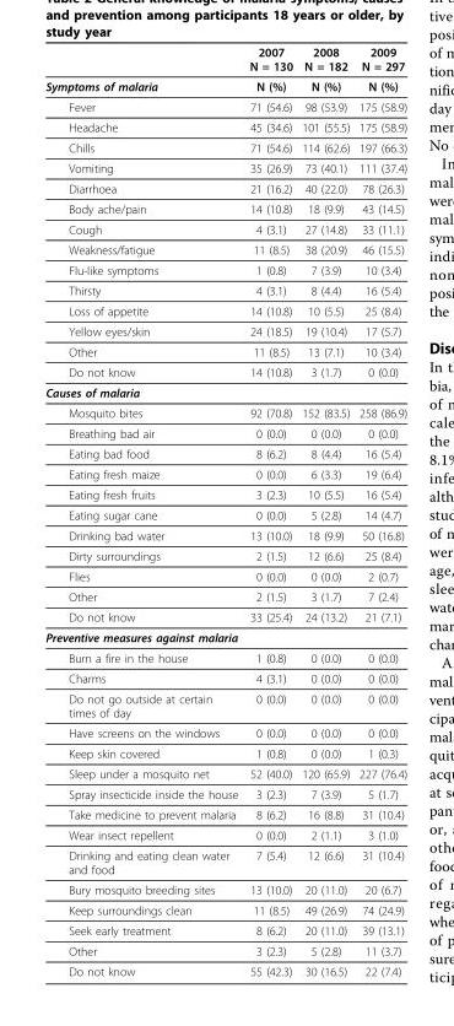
<table><thead><tr><td></td><td>2007 N = 130</td><td>2008 N = 182</td><td>2009 N = 297</td></tr></thead><tbody><tr><td>Symptoms of malaria</td><td>N (%)</td><td>N (%)</td><td>N (%)</td></tr><tr><td>Fever</td><td>71 (54.6)</td><td>98 (53.9)</td><td>175 (58.9)</td></tr><tr><td>Headache</td><td>45 (34.6)</td><td>101 (55.5)</td><td>175 (58.9)</td></tr><tr><td>Chills</td><td>71 (54.6)</td><td>114 (62.6)</td><td>197 (66.3)</td></tr><tr><td>Vomiting</td><td>35 (26.9)</td><td>73 (40.1)</td><td>111 (37.4)</td></tr><tr><td>Diarrhoea</td><td>21 (16.2)</td><td>40 (22.0)</td><td>78 (26.3)</td></tr><tr><td>Body ache/pain</td><td>14 (10.8)</td><td>18 (9.9)</td><td>43 (14.5)</td></tr><tr><td>Cough</td><td>4 (3.1)</td><td>27 (14.8)</td><td>33 (11.1)</td></tr><tr><td>Weakness/fatigue</td><td>11 (8.5)</td><td>38 (20.9)</td><td>46 (15.5)</td></tr><tr><td>Flu-like symptoms</td><td>1 (0.8)</td><td>7 (3.9)</td><td>10 (3.4)</td></tr><tr><td>Thirsty</td><td>4 (3.1)</td><td>8 (4.4)</td><td>16 (5.4)</td></tr><tr><td>Loss of appetite</td><td>14 (10.8)</td><td>10 (5.5)</td><td>25 (8.4)</td></tr><tr><td>Yellow eyes/skin</td><td>24 (18.5)</td><td>19 (10.4)</td><td>17 (5.7)</td></tr><tr><td>Other</td><td>11 (8.5)</td><td>13 (7.1)</td><td>10 (3.4)</td></tr><tr><td>Do not know</td><td>14 (10.8)</td><td>3 (1.7)</td><td>0 (0.0)</td></tr><tr><td colspan="4">Causes of malaria</td></tr><tr><td>Mosquito bites</td><td>92 (70.8)</td><td>152 (83.5)</td><td>258 (86.9)</td></tr><tr><td>Breathing bad air</td><td>0 (0.0)</td><td>0 (0.0)</td><td>0 (0.0)</td></tr><tr><td>Eating bad food</td><td>8 (6.2)</td><td>8 (4.4)</td><td>16 (5.4)</td></tr><tr><td>Eating fresh maize</td><td>0 (0.0)</td><td>6 (3.3)</td><td>19 (6.4)</td></tr><tr><td>Eating fresh fruits</td><td>3 (2.3)</td><td>10 (5.5)</td><td>16 (5.4)</td></tr><tr><td>Eating sugar cane</td><td>0 (0.0)</td><td>5 (2.8)</td><td>14 (4.7)</td></tr><tr><td>Drinking bad water</td><td>13 (10.0)</td><td>18 (9.9)</td><td>50 (16.8)</td></tr><tr><td>Dirty surroundings</td><td>2 (1.5)</td><td>12 (6.6)</td><td>25 (8.4)</td></tr><tr><td>Flies</td><td>0 (0.0)</td><td>0 (0.0)</td><td>2 (0.7)</td></tr><tr><td>Other</td><td>2 (1.5)</td><td>3 (1.7)</td><td>7 (2.4)</td></tr><tr><td>Do not know</td><td>33 (25.4)</td><td>24 (13.2)</td><td>21 (7.1)</td></tr><tr><td colspan="4">Preventive measures against malaria</td></tr><tr><td>Burn a fire in the house</td><td>1 (0.8)</td><td>0 (0.0)</td><td>0 (0.0)</td></tr><tr><td>Charms</td><td>4 (3.1)</td><td>0 (0.0)</td><td>0 (0.0)</td></tr><tr><td>Do not go outside at certain times of day</td><td>0 (0.0)</td><td>0 (0.0)</td><td>0 (0.0)</td></tr><tr><td>Have screens on the windows</td><td>0 (0.0)</td><td>0 (0.0)</td><td>0 (0.0)</td></tr><tr><td>Keep skin covered</td><td>1 (0.8)</td><td>0 (0.0)</td><td>1 (0.3)</td></tr><tr><td>Sleep under a mosquito net</td><td>52 (40.0)</td><td>120 (65.9)</td><td>227 (76.4)</td></tr><tr><td>Spray insecticide inside the house</td><td>3 (2.3)</td><td>7 (3.9)</td><td>5 (1.7)</td></tr><tr><td>Take medicine to prevent malaria</td><td>8 (6.2)</td><td>16 (8.8)</td><td>31 (10.4)</td></tr><tr><td>Wear insect repellent</td><td>0 (0.0)</td><td>2 (1.1)</td><td>3 (1.0)</td></tr><tr><td>Drinking and eating clean water and food</td><td>7 (5.4)</td><td>12 (6.6)</td><td>31 (10.4)</td></tr><tr><td>Bury mosquito breeding sites</td><td>13 (10.0)</td><td>20 (11.0)</td><td>20 (6.7)</td></tr><tr><td>Keep surroundings clean</td><td>11 (8.5)</td><td>49 (26.9)</td><td>74 (24.9)</td></tr><tr><td>Seek early treatment</td><td>8 (6.2)</td><td>20 (11.0)</td><td>39 (13.1)</td></tr><tr><td>Other</td><td>3 (2.3)</td><td>5 (2.8)</td><td>11 (3.7)</td></tr><tr><td>Do not know</td><td>55 (42.3)</td><td>30 (16.5)</td><td>22 (7.4)</td></tr></tbody></table>